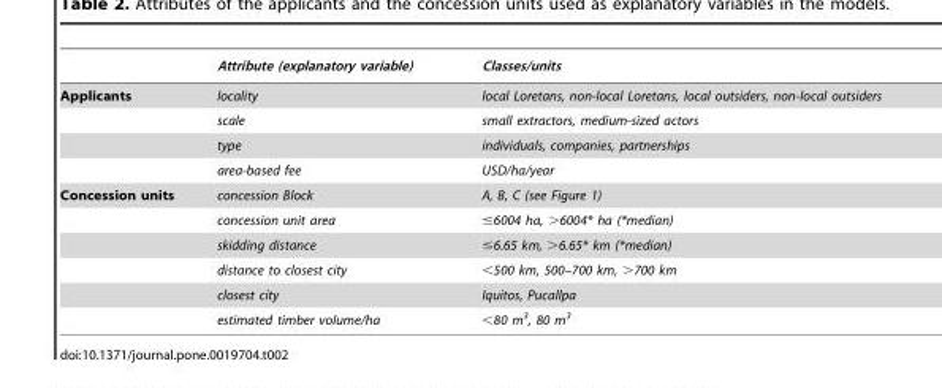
<table><thead><tr><td></td><td>Attribute (explanatory variable)</td><td>Classes/units</td></tr></thead><tbody><tr><td rowspan="4">Applicants</td><td>locality</td><td>local Loretans, non-local Loretans, local outsiders, non-local outsiders</td></tr><tr><td>scale</td><td>small extractors, medium-sized actors</td></tr><tr><td>type</td><td>individuals, companies, partnerships</td></tr><tr><td>area-based fee</td><td>USD/ha/year</td></tr><tr><td rowspan="6">Concession units</td><td>concession Block</td><td>A, B, C (see Figure 1)</td></tr><tr><td>concession unit area</td><td>≤6004 ha, &gt;6004* ha (*median)</td></tr><tr><td>skidding distance</td><td>≤6.65 km, &gt;6.65* km (*median)</td></tr><tr><td>distance to closest city</td><td>&lt;500 km, 500–700 km, &gt;700 km</td></tr><tr><td>closest city</td><td>Iquitos, Pucallpa</td></tr><tr><td>estimated timber volume/ha</td><td>&lt;80 m<sup>3</sup>, 80 m<sup>3</sup></td></tr></tbody></table>